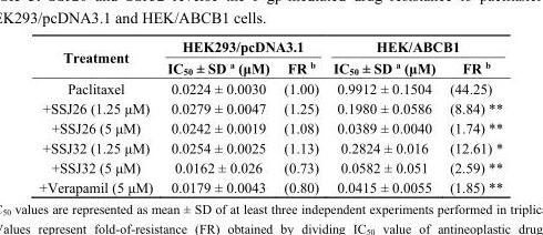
<table><thead><tr><td rowspan="2">Treatment</td><td colspan="2">HEK293/pcDNA3.1</td><td colspan="2">HEK/ABCB1</td></tr><tr><td>IC<sub>50</sub> ± SD <sup>a</sup> (μM)</td><td>FR <sup>b</sup></td><td>IC<sub>50</sub> ± SD <sup>a</sup> (μM)</td><td>FR <sup>b</sup></td></tr></thead><tbody><tr><td>Paclitaxel</td><td>0.0224 ± 0.0030</td><td>(1.00)</td><td>0.9912 ± 0.1504</td><td>(44.25)</td></tr><tr><td>+SSJ26 (1.25 μM)</td><td>0.0279 ± 0.0047</td><td>(1.25)</td><td>0.1980 ± 0.0586</td><td>(8.84) **</td></tr><tr><td>+SSJ26 (5 μM)</td><td>0.0242 ± 0.0019</td><td>(1.08)</td><td>0.0389 ± 0.0040</td><td>(1.74) **</td></tr><tr><td>+SSJ32 (1.25 μM)</td><td>0.0254 ± 0.0025</td><td>(1.13)</td><td>0.2824 ± 0.016</td><td>(12.61) *</td></tr><tr><td>+SSJ32 (5 μM)</td><td>0.0162 ± 0.026</td><td>(0.73)</td><td>0.0582 ± 0.051</td><td>(2.59) **</td></tr><tr><td>+Verapamil (5 μM)</td><td>0.0179 ± 0.0043</td><td>(0.80)</td><td>0.0415 ± 0.0055</td><td>(1.85) **</td></tr></tbody></table>